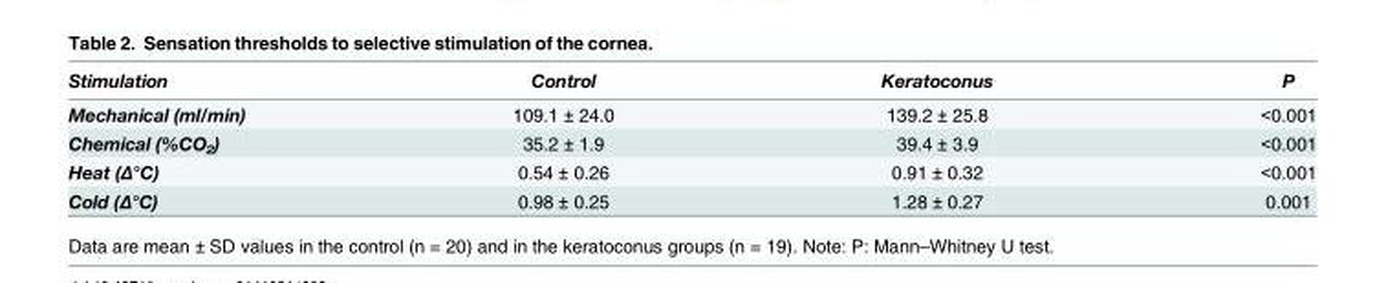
<table><thead><tr><td>Stimulation</td><td>Control</td><td>Keratoconus</td><td>P</td></tr></thead><tbody><tr><td>Mechanical (ml/min)</td><td>109.1 ± 24.0</td><td>139.2 ± 25.8</td><td>&lt;0.001</td></tr><tr><td>Chemical (%CO<sub>2</sub>)</td><td>35.2 ± 1.9</td><td>39.4 ± 3.9</td><td>&lt;0.001</td></tr><tr><td>Heat (Δ°C)</td><td>0.54 ± 0.26</td><td>0.91 ± 0.32</td><td>&lt;0.001</td></tr><tr><td>Cold (Δ°C)</td><td>0.98 ± 0.25</td><td>1.28 ± 0.27</td><td>0.001</td></tr></tbody></table>